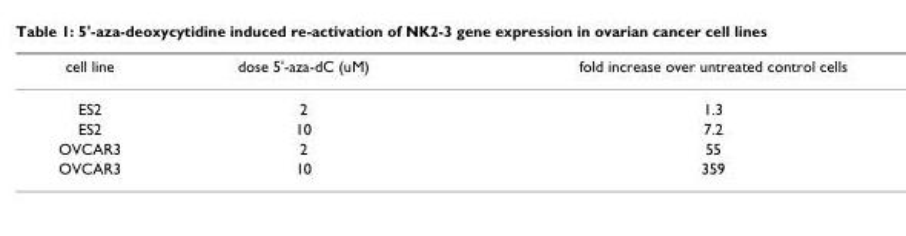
<table><thead><tr><td>cell line</td><td>dose 5&#x27;-aza-dC (uM)</td><td>fold increase over untreated control cells</td></tr></thead><tbody><tr><td>ES2</td><td>2</td><td>1.3</td></tr><tr><td>ES2</td><td>10</td><td>7.2</td></tr><tr><td>OVCAR3</td><td>2</td><td>55</td></tr><tr><td>OVCAR3</td><td>10</td><td>359</td></tr></tbody></table>